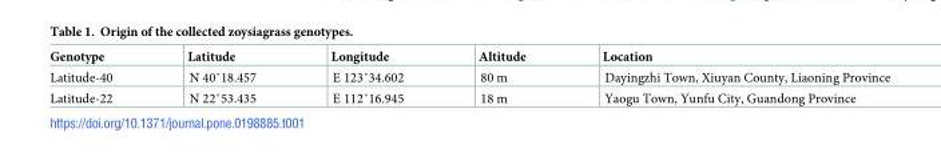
<table><thead><tr><td>Genotype</td><td>Latitude</td><td>Longitude</td><td>Altitude</td><td>Location</td></tr></thead><tbody><tr><td>Latitude-40</td><td>N 40˚18.457</td><td>E 123˚34.602</td><td>80 m</td><td>Dayingzhi Town, Xiuyan County, Liaoning Province</td></tr><tr><td>Latitude-22</td><td>N 22˚53.435</td><td>E 112˚16.945</td><td>18 m</td><td>Yaogu Town, Yunfu City, Guandong Province</td></tr></tbody></table>